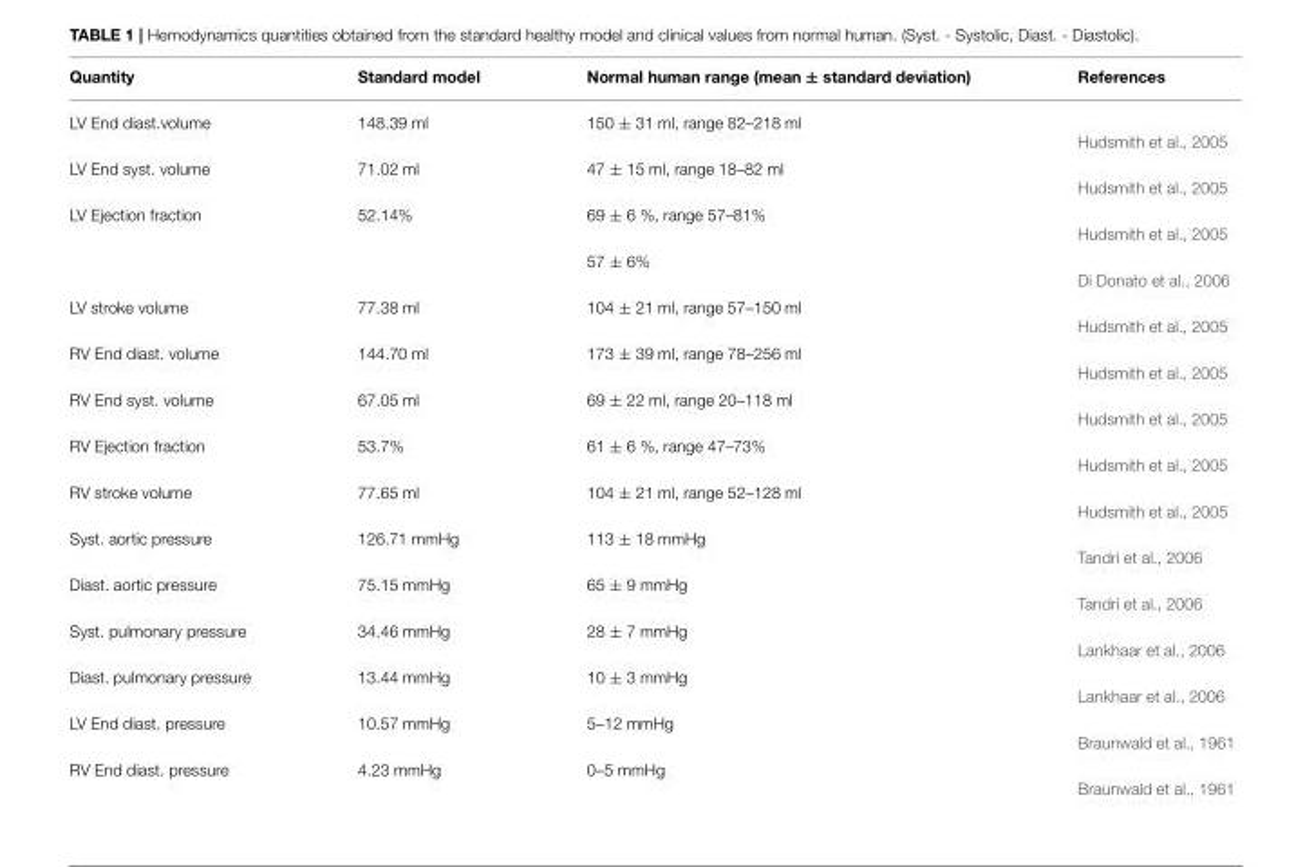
<table><thead><tr><td>Quantity</td><td>Standard model</td><td>Normal human range (mean ± standard deviation)</td><td>References</td></tr></thead><tbody><tr><td>LV End diast.volume</td><td>148.39 ml</td><td>150 ± 31 ml, range 82–218 ml</td><td>Hudsmith et al., 2005</td></tr><tr><td>LV End syst. volume</td><td>71.02 ml</td><td>47 ± 15 ml, range 18–82 ml</td><td>Hudsmith et al., 2005</td></tr><tr><td rowspan="2">LV Ejection fraction</td><td>52.14%</td><td>69 ± 6 %, range 57–81%</td><td>Hudsmith et al., 2005</td></tr><tr><td></td><td>57 ± 6%</td><td>Di Donato et al., 2006</td></tr><tr><td>LV stroke volume</td><td>77.38 ml</td><td>104 ± 21 ml, range 57–150 ml</td><td>Hudsmith et al., 2005</td></tr><tr><td>RV End diast. volume</td><td>144.70 ml</td><td>173 ± 39 ml, range 78–256 ml</td><td>Hudsmith et al., 2005</td></tr><tr><td>RV End syst. volume</td><td>67.05 ml</td><td>69 ± 22 ml, range 20–118 ml</td><td>Hudsmith et al., 2005</td></tr><tr><td>RV Ejection fraction</td><td>53.7%</td><td>61 ± 6 %, range 47–73%</td><td>Hudsmith et al., 2005</td></tr><tr><td>RV stroke volume</td><td>77.65 ml</td><td>104 ± 21 ml, range 52–128 ml</td><td>Hudsmith et al., 2005</td></tr><tr><td>Syst. aortic pressure</td><td>126.71 mmHg</td><td>113 ± 18 mmHg</td><td>Tandri et al., 2006</td></tr><tr><td>Diast. aortic pressure</td><td>75.15 mmHg</td><td>65 ± 9 mmHg</td><td>Tandri et al., 2006</td></tr><tr><td>Syst. pulmonary pressure</td><td>34.46 mmHg</td><td>28 ± 7 mmHg</td><td>Lankhaar et al., 2006</td></tr><tr><td>Diast. pulmonary pressure</td><td>13.44 mmHg</td><td>10 ± 3 mmHg</td><td>Lankhaar et al., 2006</td></tr><tr><td>LV End diast. pressure</td><td>10.57 mmHg</td><td>5–12 mmHg</td><td>Braunwald et al., 1961</td></tr><tr><td>RV End diast. pressure</td><td>4.23 mmHg</td><td>0–5 mmHg</td><td>Braunwald et al., 1961</td></tr></tbody></table>